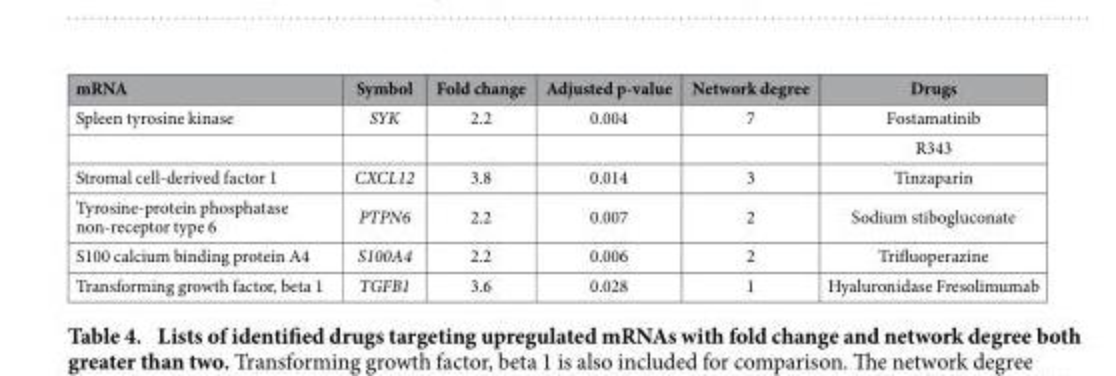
<table><thead><tr><td>mRNA</td><td>Symbol</td><td>Fold change</td><td>Adjusted p-value</td><td>Network degree</td><td>Drugs</td></tr></thead><tbody><tr><td rowspan="2">Spleen tyrosine kinase</td><td>SYK</td><td>2.2</td><td>0.004</td><td>7</td><td>Fostamatinib</td></tr><tr><td></td><td></td><td></td><td></td><td>R343</td></tr><tr><td>Stromal cell-derived factor 1</td><td>CXCL12</td><td>3.8</td><td>0.014</td><td>3</td><td>Tinzaparin</td></tr><tr><td>Tyrosine-protein phosphatase non-receptor type 6</td><td>PTPN6</td><td>2.2</td><td>0.007</td><td>2</td><td>Sodium stibogluconate</td></tr><tr><td>S100 calcium binding protein A4</td><td>S100A4</td><td>2.2</td><td>0.006</td><td>2</td><td>Trifluoperazine</td></tr><tr><td>Transforming growth factor, beta 1</td><td>TGFB1</td><td>3.6</td><td>0.028</td><td>1</td><td>Hyaluronidase Fresolimumab</td></tr></tbody></table>